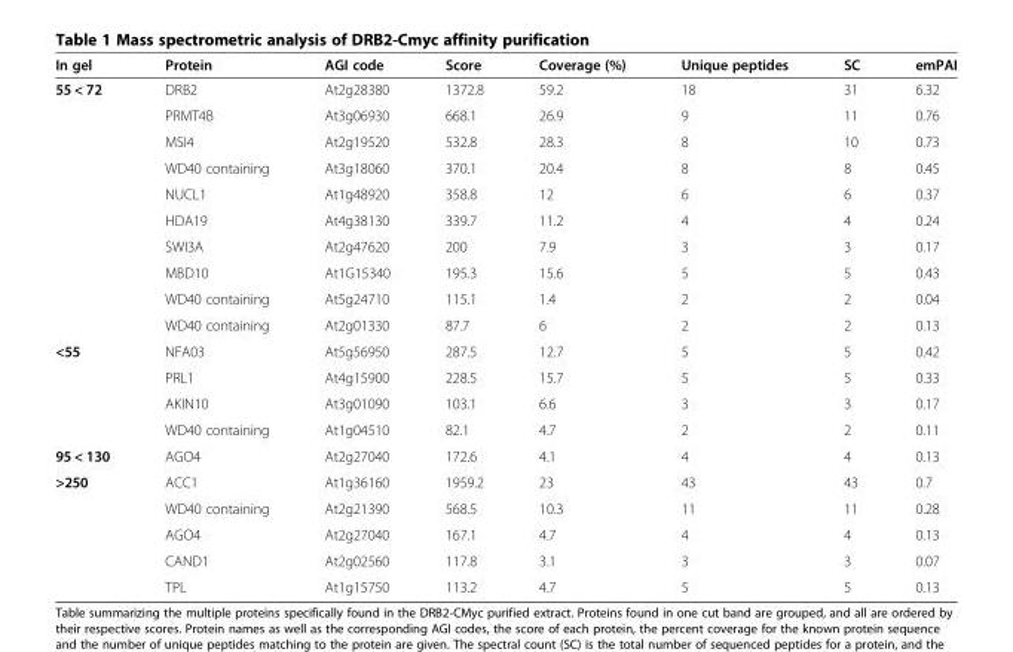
<table><thead><tr><td>In gel</td><td>Protein</td><td>AGI code</td><td>Score</td><td>Coverage (%)</td><td>Unique peptides</td><td>SC</td><td>emPAI</td></tr></thead><tbody><tr><td rowspan="10">55 &lt; 72</td><td>DRB2</td><td>At2g28380</td><td>1372.8</td><td>59.2</td><td>18</td><td>31</td><td>6.32</td></tr><tr><td>PRMT4B</td><td>At3g06930</td><td>668.1</td><td>26.9</td><td>9</td><td>11</td><td>0.76</td></tr><tr><td>MSI4</td><td>At2g19520</td><td>532.8</td><td>28.3</td><td>8</td><td>10</td><td>0.73</td></tr><tr><td>WD40 containing</td><td>At3g18060</td><td>370.1</td><td>20.4</td><td>8</td><td>8</td><td>0.45</td></tr><tr><td>NUCL1</td><td>At1g48920</td><td>358.8</td><td>12</td><td>6</td><td>6</td><td>0.37</td></tr><tr><td>HDA19</td><td>At4g38130</td><td>339.7</td><td>11.2</td><td>4</td><td>4</td><td>0.24</td></tr><tr><td>SWI3A</td><td>At2g47620</td><td>200</td><td>7.9</td><td>3</td><td>3</td><td>0.17</td></tr><tr><td>MBD10</td><td>At1G15340</td><td>195.3</td><td>15.6</td><td>5</td><td>5</td><td>0.43</td></tr><tr><td>WD40 containing</td><td>At5g24710</td><td>115.1</td><td>1.4</td><td>2</td><td>2</td><td>0.04</td></tr><tr><td>WD40 containing</td><td>At2g01330</td><td>87.7</td><td>6</td><td>2</td><td>2</td><td>0.13</td></tr><tr><td rowspan="4">&lt;55</td><td>NFA03</td><td>At5g56950</td><td>287.5</td><td>12.7</td><td>5</td><td>5</td><td>0.42</td></tr><tr><td>PRL1</td><td>At4g15900</td><td>228.5</td><td>15.7</td><td>5</td><td>5</td><td>0.33</td></tr><tr><td>AKIN10</td><td>At3g01090</td><td>103.1</td><td>6.6</td><td>3</td><td>3</td><td>0.17</td></tr><tr><td>WD40 containing</td><td>At1g04510</td><td>82.1</td><td>4.7</td><td>2</td><td>2</td><td>0.11</td></tr><tr><td>95 &lt; 130</td><td>AGO4</td><td>At2g27040</td><td>172.6</td><td>4.1</td><td>4</td><td>4</td><td>0.13</td></tr><tr><td rowspan="5">&gt;250</td><td>ACC1</td><td>At1g36160</td><td>1959.2</td><td>23</td><td>43</td><td>43</td><td>0.7</td></tr><tr><td>WD40 containing</td><td>At2g21390</td><td>568.5</td><td>10.3</td><td>11</td><td>11</td><td>0.28</td></tr><tr><td>AGO4</td><td>At2g27040</td><td>167.1</td><td>4.7</td><td>4</td><td>4</td><td>0.13</td></tr><tr><td>CAND1</td><td>At2g02560</td><td>117.8</td><td>3.1</td><td>3</td><td>3</td><td>0.07</td></tr><tr><td>TPL</td><td>At1g15750</td><td>113.2</td><td>4.7</td><td>5</td><td>5</td><td>0.13</td></tr></tbody></table>